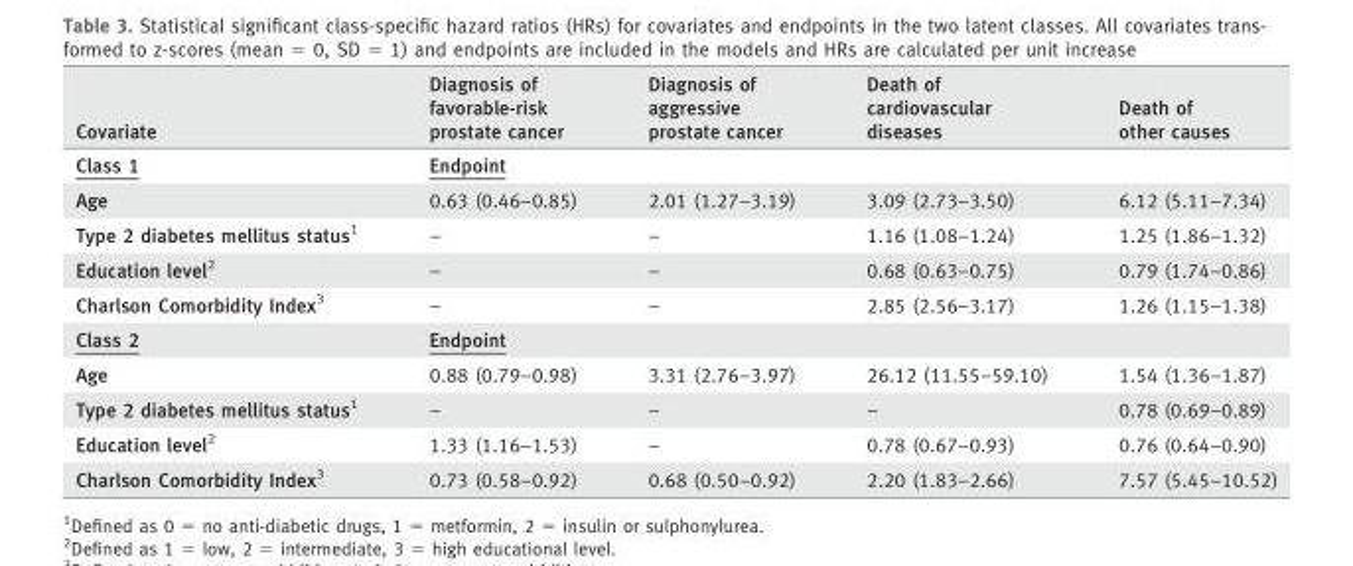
<table><thead><tr><td>Covariate</td><td>Diagnosis of favorable-risk prostate cancer</td><td>Diagnosis of aggressive prostate cancer</td><td>Death of cardiovascular diseases</td><td>Death of other causes</td></tr></thead><tbody><tr><td>Class 1</td><td>Endpoint</td><td></td><td></td><td></td></tr><tr><td>Age</td><td>0.63 (0.46–0.85)</td><td>2.01 (1.27–3.19)</td><td>3.09 (2.73–3.50)</td><td>6.12 (5.11–7.34)</td></tr><tr><td>Type 2 diabetes mellitus status1</td><td>–</td><td>–</td><td>1.16 (1.08–1.24)</td><td>1.25 (1.86–1.32)</td></tr><tr><td>Education level2</td><td>–</td><td>–</td><td>0.68 (0.63–0.75)</td><td>0.79 (1.74–0.86)</td></tr><tr><td>Charlson Comorbidity Index3</td><td>–</td><td>–</td><td>2.85 (2.56–3.17)</td><td>1.26 (1.15–1.38)</td></tr><tr><td>Class 2</td><td>Endpoint</td><td></td><td></td><td></td></tr><tr><td>Age</td><td>0.88 (0.79–0.98)</td><td>3.31 (2.76–3.97)</td><td>26.12 (11.55–59.10)</td><td>1.54 (1.36–1.87)</td></tr><tr><td>Type 2 diabetes mellitus status1</td><td>–</td><td>–</td><td>–</td><td>0.78 (0.69–0.89)</td></tr><tr><td>Education level2</td><td>1.33 (1.16–1.53)</td><td>–</td><td>0.78 (0.67–0.93)</td><td>0.76 (0.64–0.90)</td></tr><tr><td>Charlson Comorbidity Index3</td><td>0.73 (0.58–0.92)</td><td>0.68 (0.50–0.92)</td><td>2.20 (1.83–2.66)</td><td>7.57 (5.45–10.52)</td></tr></tbody></table>